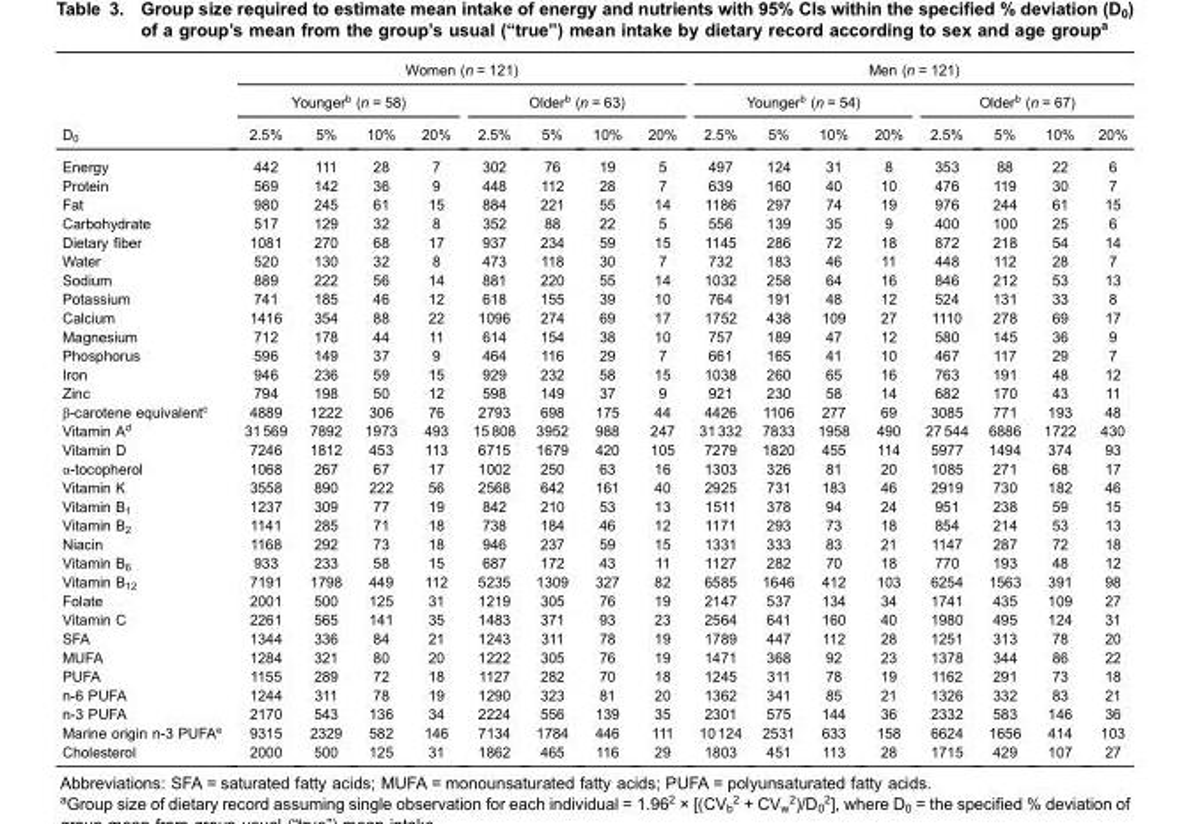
<table><thead><tr><td rowspan="3">D<sub>0</sub></td><td colspan="8">Women (n = 121)</td><td colspan="8">Men (n = 121)</td></tr><tr><td colspan="4">Younger<sup>b</sup> (n = 58)</td><td colspan="4">Older<sup>b</sup> (n = 63)</td><td colspan="4">Younger<sup>b</sup> (n = 54)</td><td colspan="4">Older<sup>b</sup> (n = 67)</td></tr><tr><td>2.5%</td><td>5%</td><td>10%</td><td>20%</td><td>2.5%</td><td>5%</td><td>10%</td><td>20%</td><td>2.5%</td><td>5%</td><td>10%</td><td>20%</td><td>2.5%</td><td>5%</td><td>10%</td><td>20%</td></tr></thead><tbody><tr><td>Energy</td><td>442</td><td>111</td><td>28</td><td>7</td><td>302</td><td>76</td><td>19</td><td>5</td><td>497</td><td>124</td><td>31</td><td>8</td><td>353</td><td>88</td><td>22</td><td>6</td></tr><tr><td>Protein</td><td>569</td><td>142</td><td>36</td><td>9</td><td>448</td><td>112</td><td>28</td><td>7</td><td>639</td><td>160</td><td>40</td><td>10</td><td>476</td><td>119</td><td>30</td><td>7</td></tr><tr><td>Fat</td><td>980</td><td>245</td><td>61</td><td>15</td><td>884</td><td>221</td><td>55</td><td>14</td><td>1186</td><td>297</td><td>74</td><td>19</td><td>976</td><td>244</td><td>61</td><td>15</td></tr><tr><td>Carbohydrate</td><td>517</td><td>129</td><td>32</td><td>8</td><td>352</td><td>88</td><td>22</td><td>5</td><td>556</td><td>139</td><td>35</td><td>9</td><td>400</td><td>100</td><td>25</td><td>6</td></tr><tr><td>Dietary fiber</td><td>1081</td><td>270</td><td>68</td><td>17</td><td>937</td><td>234</td><td>59</td><td>15</td><td>1145</td><td>286</td><td>72</td><td>18</td><td>872</td><td>218</td><td>54</td><td>14</td></tr><tr><td>Water</td><td>520</td><td>130</td><td>32</td><td>8</td><td>473</td><td>118</td><td>30</td><td>7</td><td>732</td><td>183</td><td>46</td><td>11</td><td>448</td><td>112</td><td>28</td><td>7</td></tr><tr><td>Sodium</td><td>889</td><td>222</td><td>56</td><td>14</td><td>881</td><td>220</td><td>55</td><td>14</td><td>1032</td><td>258</td><td>64</td><td>16</td><td>846</td><td>212</td><td>53</td><td>13</td></tr><tr><td>Potassium</td><td>741</td><td>185</td><td>46</td><td>12</td><td>618</td><td>155</td><td>39</td><td>10</td><td>764</td><td>191</td><td>48</td><td>12</td><td>524</td><td>131</td><td>33</td><td>8</td></tr><tr><td>Calcium</td><td>1416</td><td>354</td><td>88</td><td>22</td><td>1096</td><td>274</td><td>69</td><td>17</td><td>1752</td><td>438</td><td>109</td><td>27</td><td>1110</td><td>278</td><td>69</td><td>17</td></tr><tr><td>Magnesium</td><td>712</td><td>178</td><td>44</td><td>11</td><td>614</td><td>154</td><td>38</td><td>10</td><td>757</td><td>189</td><td>47</td><td>12</td><td>580</td><td>145</td><td>36</td><td>9</td></tr><tr><td>Phosphorus</td><td>596</td><td>149</td><td>37</td><td>9</td><td>464</td><td>116</td><td>29</td><td>7</td><td>661</td><td>165</td><td>41</td><td>10</td><td>467</td><td>117</td><td>29</td><td>7</td></tr><tr><td>Iron</td><td>946</td><td>236</td><td>59</td><td>15</td><td>929</td><td>232</td><td>58</td><td>15</td><td>1038</td><td>260</td><td>65</td><td>16</td><td>763</td><td>191</td><td>48</td><td>12</td></tr><tr><td>Zinc</td><td>794</td><td>198</td><td>50</td><td>12</td><td>598</td><td>149</td><td>37</td><td>9</td><td>921</td><td>230</td><td>58</td><td>14</td><td>682</td><td>170</td><td>43</td><td>11</td></tr><tr><td>β-carotene equivalent<sup>c</sup></td><td>4889</td><td>1222</td><td>306</td><td>76</td><td>2793</td><td>698</td><td>175</td><td>44</td><td>4426</td><td>1106</td><td>277</td><td>69</td><td>3085</td><td>771</td><td>193</td><td>48</td></tr><tr><td>Vitamin A<sup>d</sup></td><td>31 569</td><td>7892</td><td>1973</td><td>493</td><td>15 808</td><td>3952</td><td>988</td><td>247</td><td>31 332</td><td>7833</td><td>1958</td><td>490</td><td>27 544</td><td>6886</td><td>1722</td><td>430</td></tr><tr><td>Vitamin D</td><td>7246</td><td>1812</td><td>453</td><td>113</td><td>6715</td><td>1679</td><td>420</td><td>105</td><td>7279</td><td>1820</td><td>455</td><td>114</td><td>5977</td><td>1494</td><td>374</td><td>93</td></tr><tr><td>α-tocopherol</td><td>1068</td><td>267</td><td>67</td><td>17</td><td>1002</td><td>250</td><td>63</td><td>16</td><td>1303</td><td>326</td><td>81</td><td>20</td><td>1085</td><td>271</td><td>68</td><td>17</td></tr><tr><td>Vitamin K</td><td>3558</td><td>890</td><td>222</td><td>56</td><td>2568</td><td>642</td><td>161</td><td>40</td><td>2925</td><td>731</td><td>183</td><td>46</td><td>2919</td><td>730</td><td>182</td><td>46</td></tr><tr><td>Vitamin B<sub>1</sub></td><td>1237</td><td>309</td><td>77</td><td>19</td><td>842</td><td>210</td><td>53</td><td>13</td><td>1511</td><td>378</td><td>94</td><td>24</td><td>951</td><td>238</td><td>59</td><td>15</td></tr><tr><td>Vitamin B<sub>2</sub></td><td>1141</td><td>285</td><td>71</td><td>18</td><td>738</td><td>184</td><td>46</td><td>12</td><td>1171</td><td>293</td><td>73</td><td>18</td><td>854</td><td>214</td><td>53</td><td>13</td></tr><tr><td>Niacin</td><td>1168</td><td>292</td><td>73</td><td>18</td><td>946</td><td>237</td><td>59</td><td>15</td><td>1331</td><td>333</td><td>83</td><td>21</td><td>1147</td><td>287</td><td>72</td><td>18</td></tr><tr><td>Vitamin B<sub>6</sub></td><td>933</td><td>233</td><td>58</td><td>15</td><td>687</td><td>172</td><td>43</td><td>11</td><td>1127</td><td>282</td><td>70</td><td>18</td><td>770</td><td>193</td><td>48</td><td>12</td></tr><tr><td>Vitamin B<sub>12</sub></td><td>7191</td><td>1798</td><td>449</td><td>112</td><td>5235</td><td>1309</td><td>327</td><td>82</td><td>6585</td><td>1646</td><td>412</td><td>103</td><td>6254</td><td>1563</td><td>391</td><td>98</td></tr><tr><td>Folate</td><td>2001</td><td>500</td><td>125</td><td>31</td><td>1219</td><td>305</td><td>76</td><td>19</td><td>2147</td><td>537</td><td>134</td><td>34</td><td>1741</td><td>435</td><td>109</td><td>27</td></tr><tr><td>Vitamin C</td><td>2261</td><td>565</td><td>141</td><td>35</td><td>1483</td><td>371</td><td>93</td><td>23</td><td>2564</td><td>641</td><td>160</td><td>40</td><td>1980</td><td>495</td><td>124</td><td>31</td></tr><tr><td>SFA</td><td>1344</td><td>336</td><td>84</td><td>21</td><td>1243</td><td>311</td><td>78</td><td>19</td><td>1789</td><td>447</td><td>112</td><td>28</td><td>1251</td><td>313</td><td>78</td><td>20</td></tr><tr><td>MUFA</td><td>1284</td><td>321</td><td>80</td><td>20</td><td>1222</td><td>305</td><td>76</td><td>19</td><td>1471</td><td>368</td><td>92</td><td>23</td><td>1378</td><td>344</td><td>86</td><td>22</td></tr><tr><td>PUFA</td><td>1155</td><td>289</td><td>72</td><td>18</td><td>1127</td><td>282</td><td>70</td><td>18</td><td>1245</td><td>311</td><td>78</td><td>19</td><td>1162</td><td>291</td><td>73</td><td>18</td></tr><tr><td>n-6 PUFA</td><td>1244</td><td>311</td><td>78</td><td>19</td><td>1290</td><td>323</td><td>81</td><td>20</td><td>1362</td><td>341</td><td>85</td><td>21</td><td>1326</td><td>332</td><td>83</td><td>21</td></tr><tr><td>n-3 PUFA</td><td>2170</td><td>543</td><td>136</td><td>34</td><td>2224</td><td>556</td><td>139</td><td>35</td><td>2301</td><td>575</td><td>144</td><td>36</td><td>2332</td><td>583</td><td>146</td><td>36</td></tr><tr><td>Marine origin n-3 PUFA<sup>e</sup></td><td>9315</td><td>2329</td><td>582</td><td>146</td><td>7134</td><td>1784</td><td>446</td><td>111</td><td>10 124</td><td>2531</td><td>633</td><td>158</td><td>6624</td><td>1656</td><td>414</td><td>103</td></tr><tr><td>Cholesterol</td><td>2000</td><td>500</td><td>125</td><td>31</td><td>1862</td><td>465</td><td>116</td><td>29</td><td>1803</td><td>451</td><td>113</td><td>28</td><td>1715</td><td>429</td><td>107</td><td>27</td></tr></tbody></table>